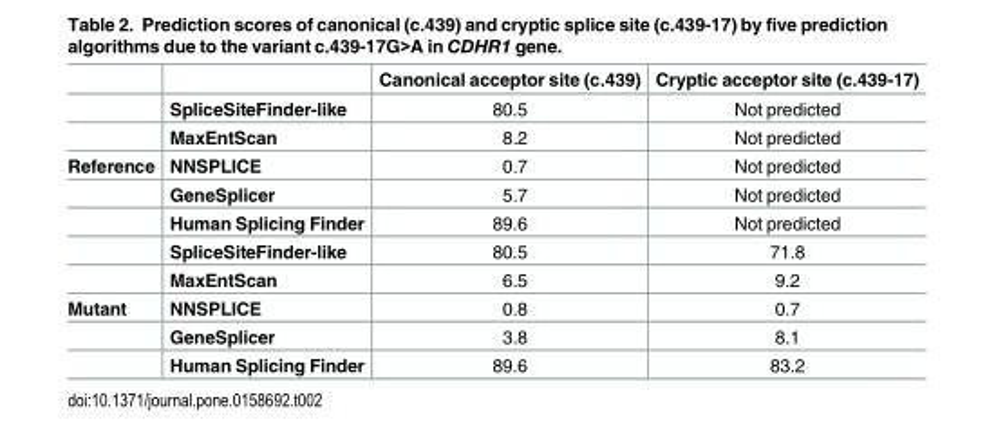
<table><thead><tr><td></td><td></td><td>Canonical acceptor site (c.439)</td><td>Cryptic acceptor site (c.439-17)</td></tr></thead><tbody><tr><td></td><td>SpliceSiteFinder-like</td><td>80.5</td><td>Not predicted</td></tr><tr><td></td><td>MaxEntScan</td><td>8.2</td><td>Not predicted</td></tr><tr><td rowspan="5">Reference</td><td>NNSPLICE</td><td>0.7</td><td>Not predicted</td></tr><tr><td>GeneSplicer</td><td>5.7</td><td>Not predicted</td></tr><tr><td>Human Splicing Finder</td><td>89.6</td><td>Not predicted</td></tr><tr><td>SpliceSiteFinder-like</td><td>80.5</td><td>71.8</td></tr><tr><td>MaxEntScan</td><td>6.5</td><td>9.2</td></tr><tr><td rowspan="3">Mutant</td><td>NNSPLICE</td><td>0.8</td><td>0.7</td></tr><tr><td>GeneSplicer</td><td>3.8</td><td>8.1</td></tr><tr><td>Human Splicing Finder</td><td>89.6</td><td>83.2</td></tr></tbody></table>